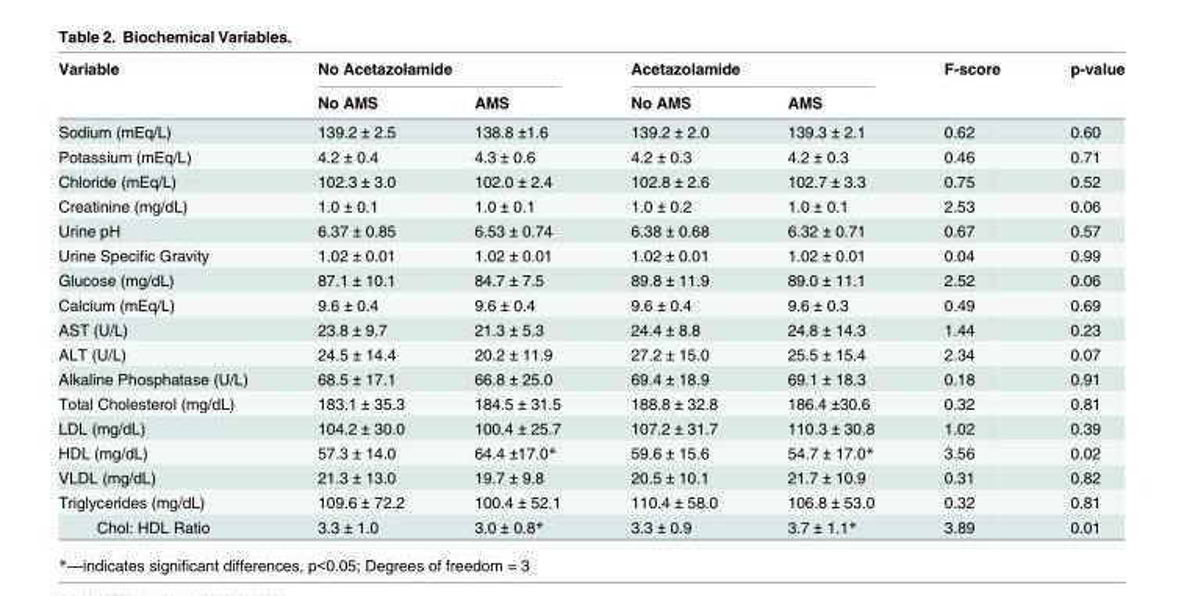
<table><thead><tr><td rowspan="2">Variable</td><td colspan="2">No Acetazolamide</td><td colspan="2">Acetazolamide</td><td rowspan="2">F-score</td><td rowspan="2">p-value</td></tr><tr><td>No AMS</td><td>AMS</td><td>No AMS</td><td>AMS</td></tr></thead><tbody><tr><td>Sodium (mEq/L)</td><td>139.2 ± 2.5</td><td>138.8 ±1.6</td><td>139.2 ± 2.0</td><td>139.3 ± 2.1</td><td>0.62</td><td>0.60</td></tr><tr><td>Potassium (mEq/L)</td><td>4.2 ± 0.4</td><td>4.3 ± 0.6</td><td>4.2 ± 0.3</td><td>4.2 ± 0.3</td><td>0.46</td><td>0.71</td></tr><tr><td>Chloride (mEq/L)</td><td>102.3 ± 3.0</td><td>102.0 ± 2.4</td><td>102.8 ± 2.6</td><td>102.7 ± 3.3</td><td>0.75</td><td>0.52</td></tr><tr><td>Creatinine (mg/dL)</td><td>1.0 ± 0.1</td><td>1.0 ± 0.1</td><td>1.0 ± 0.2</td><td>1.0 ± 0.1</td><td>2.53</td><td>0.06</td></tr><tr><td>Urine pH</td><td>6.37 ± 0.85</td><td>6.53 ± 0.74</td><td>6.38 ± 0.68</td><td>6.32 ± 0.71</td><td>0.67</td><td>0.57</td></tr><tr><td>Urine Specific Gravity</td><td>1.02 ± 0.01</td><td>1.02 ± 0.01</td><td>1.02 ± 0.01</td><td>1.02 ± 0.01</td><td>0.04</td><td>0.99</td></tr><tr><td>Glucose (mg/dL)</td><td>87.1 ± 10.1</td><td>84.7 ± 7.5</td><td>89.8 ± 11.9</td><td>89.0 ± 11.1</td><td>2.52</td><td>0.06</td></tr><tr><td>Calcium (mEq/L)</td><td>9.6 ± 0.4</td><td>9.6 ± 0.4</td><td>9.6 ± 0.4</td><td>9.6 ± 0.3</td><td>0.49</td><td>0.69</td></tr><tr><td>AST (U/L)</td><td>23.8 ± 9.7</td><td>21.3 ± 5.3</td><td>24.4 ± 8.8</td><td>24.8 ± 14.3</td><td>1.44</td><td>0.23</td></tr><tr><td>ALT (U/L)</td><td>24.5 ± 14.4</td><td>20.2 ± 11.9</td><td>27.2 ± 15.0</td><td>25.5 ± 15.4</td><td>2.34</td><td>0.07</td></tr><tr><td>Alkaline Phosphatase (U/L)</td><td>68.5 ± 17.1</td><td>66.8 ± 25.0</td><td>69.4 ± 18.9</td><td>69.1 ± 18.3</td><td>0.18</td><td>0.91</td></tr><tr><td>Total Cholesterol (mg/dL)</td><td>183.1 ± 35.3</td><td>184.5 ± 31.5</td><td>188.8 ± 32.8</td><td>186.4 ±30.6</td><td>0.32</td><td>0.81</td></tr><tr><td>LDL (mg/dL)</td><td>104.2 ± 30.0</td><td>100.4 ± 25.7</td><td>107.2 ± 31.7</td><td>110.3 ± 30.8</td><td>1.02</td><td>0.39</td></tr><tr><td>HDL (mg/dL)</td><td>57.3 ± 14.0</td><td>64.4 ±17.0*</td><td>59.6 ± 15.6</td><td>54.7 ± 17.0*</td><td>3.56</td><td>0.02</td></tr><tr><td>VLDL (mg/dL)</td><td>21.3 ± 13.0</td><td>19.7 ± 9.8</td><td>20.5 ± 10.1</td><td>21.7 ± 10.9</td><td>0.31</td><td>0.82</td></tr><tr><td>Triglycerides (mg/dL)</td><td>109.6 ± 72.2</td><td>100.4 ± 52.1</td><td>110.4 ± 58.0</td><td>106.8 ± 53.0</td><td>0.32</td><td>0.81</td></tr><tr><td>Chol: HDL Ratio</td><td>3.3 ± 1.0</td><td>3.0 ± 0.8*</td><td>3.3 ± 0.9</td><td>3.7 ± 1.1*</td><td>3.89</td><td>0.01</td></tr></tbody></table>